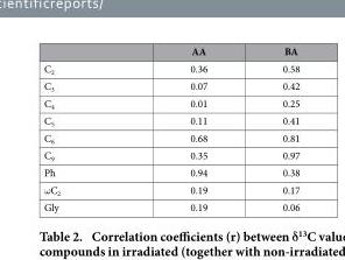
<table><thead><tr><td></td><td>AA</td><td>BA</td></tr></thead><tbody><tr><td>C<sub>2</sub></td><td>0.36</td><td>0.58</td></tr><tr><td>C<sub>3</sub></td><td>0.07</td><td>0.42</td></tr><tr><td>C<sub>4</sub></td><td>0.01</td><td>0.25</td></tr><tr><td>C<sub>5</sub></td><td>0.11</td><td>0.41</td></tr><tr><td>C<sub>6</sub></td><td>0.68</td><td>0.81</td></tr><tr><td>C<sub>9</sub></td><td>0.35</td><td>0.97</td></tr><tr><td>Ph</td><td>0.94</td><td>0.38</td></tr><tr><td>ω C<sub>2</sub></td><td>0.19</td><td>0.17</td></tr><tr><td>Gly</td><td>0.19</td><td>0.06</td></tr></tbody></table>